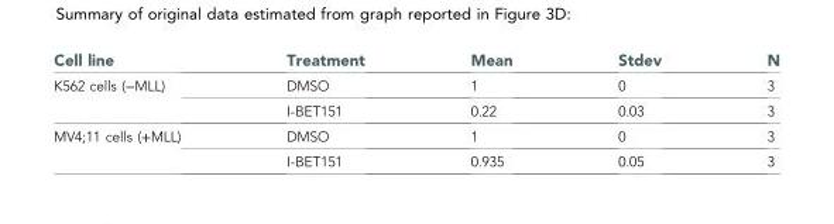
<table><thead><tr><td>Cell line</td><td>Treatment</td><td>Mean</td><td>Stdev</td><td>N</td></tr></thead><tbody><tr><td rowspan="2">K562 cells (−MLL)</td><td>DMSO</td><td>1</td><td>0</td><td>3</td></tr><tr><td>I-BET151</td><td>0.22</td><td>0.03</td><td>3</td></tr><tr><td rowspan="2">MV4;11 cells (+MLL)</td><td>DMSO</td><td>1</td><td>0</td><td>3</td></tr><tr><td>I-BET151</td><td>0.935</td><td>0.05</td><td>3</td></tr></tbody></table>